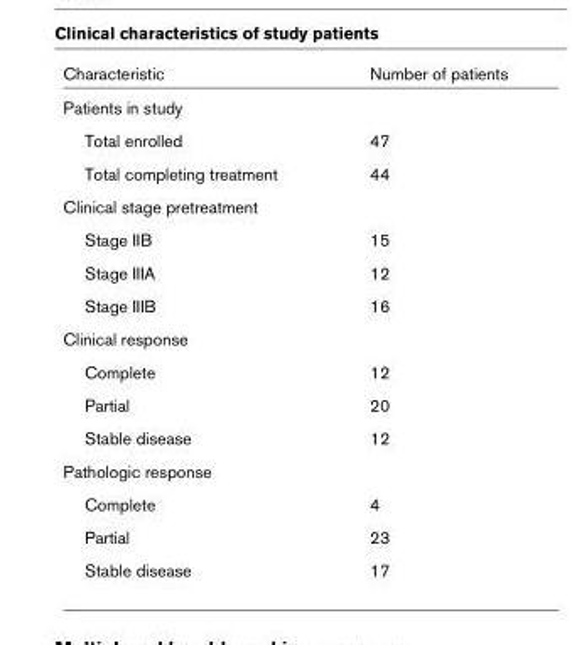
<table><thead><tr><td>Characteristic</td><td>Number of patients</td></tr></thead><tbody><tr><td colspan="2">Patients in study</td></tr><tr><td>Total enrolled</td><td>47</td></tr><tr><td>Total completing treatment</td><td>44</td></tr><tr><td colspan="2">Clinical stage pretreatment</td></tr><tr><td>Stage IIB</td><td>15</td></tr><tr><td>Stage IIIA</td><td>12</td></tr><tr><td>Stage IIIB</td><td>16</td></tr><tr><td colspan="2">Clinical response</td></tr><tr><td>Complete</td><td>12</td></tr><tr><td>Partial</td><td>20</td></tr><tr><td>Stable disease</td><td>12</td></tr><tr><td colspan="2">Pathologic response</td></tr><tr><td>Complete</td><td>4</td></tr><tr><td>Partial</td><td>23</td></tr><tr><td>Stable disease</td><td>17</td></tr></tbody></table>